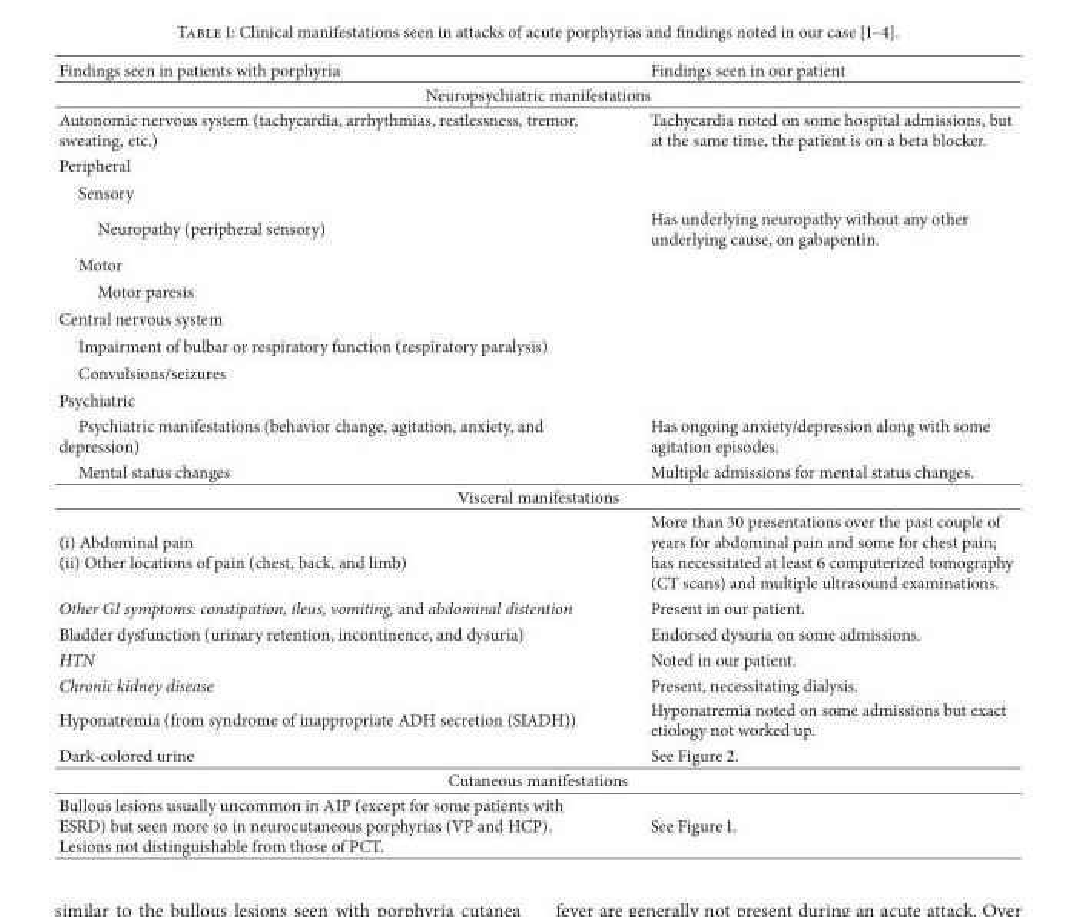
<table><thead><tr><td>Findings seen in patients with porphyria</td><td>Findings seen in our patient</td></tr></thead><tbody><tr><td colspan="2">Neuropsychiatric manifestations</td></tr><tr><td>Autonomic nervous system (tachycardia, arrhythmias, restlessness, tremor, sweating, etc.)</td><td>Tachycardia noted on some hospital admissions, but at the same time, the patient is on a beta blocker.</td></tr><tr><td colspan="2">Peripheral</td></tr><tr><td colspan="2">Sensory</td></tr><tr><td>Neuropathy (peripheral sensory)</td><td>Has underlying neuropathy without any other underlying cause, on gabapentin.</td></tr><tr><td colspan="2">Motor</td></tr><tr><td colspan="2">Motor paresis</td></tr><tr><td colspan="2">Central nervous system</td></tr><tr><td colspan="2">Impairment of bulbar or respiratory function (respiratory paralysis)</td></tr><tr><td colspan="2">Convulsions/seizures</td></tr><tr><td colspan="2">Psychiatric</td></tr><tr><td>Psychiatric manifestations (behavior change, agitation, anxiety, and depression)</td><td>Has ongoing anxiety/depression along with some agitation episodes.</td></tr><tr><td>Mental status changes</td><td>Multiple admissions for mental status changes.</td></tr><tr><td colspan="2">Visceral manifestations</td></tr><tr><td>(i) Abdominal pain (ii) Other locations of pain (chest, back, and limb)</td><td>More than 30 presentations over the past couple of years for abdominal pain and some for chest pain; has necessitated at least 6 computerized tomography (CT scans) and multiple ultrasound examinations.</td></tr><tr><td>Other GI symptoms: constipation, ileus, vomiting, and abdominal distention</td><td>Present in our patient.</td></tr><tr><td>Bladder dysfunction (urinary retention, incontinence, and dysuria)</td><td>Endorsed dysuria on some admissions.</td></tr><tr><td>HTN</td><td>Noted in our patient.</td></tr><tr><td>Chronic kidney disease</td><td>Present, necessitating dialysis.</td></tr><tr><td>Hyponatremia (from syndrome of inappropriate ADH secretion (SIADH))</td><td>Hyponatremia noted on some admissions but exact etiology not worked up.</td></tr><tr><td>Dark-colored urine</td><td>See Figure 2.</td></tr><tr><td colspan="2">Cutaneous manifestations</td></tr><tr><td>Bullous lesions usually uncommon in AIP (except for some patients with ESRD) but seen more so in neurocutaneous porphyrias (VP and HCP). Lesions not distinguishable from those of PCT.</td><td>See Figure 1.</td></tr></tbody></table>